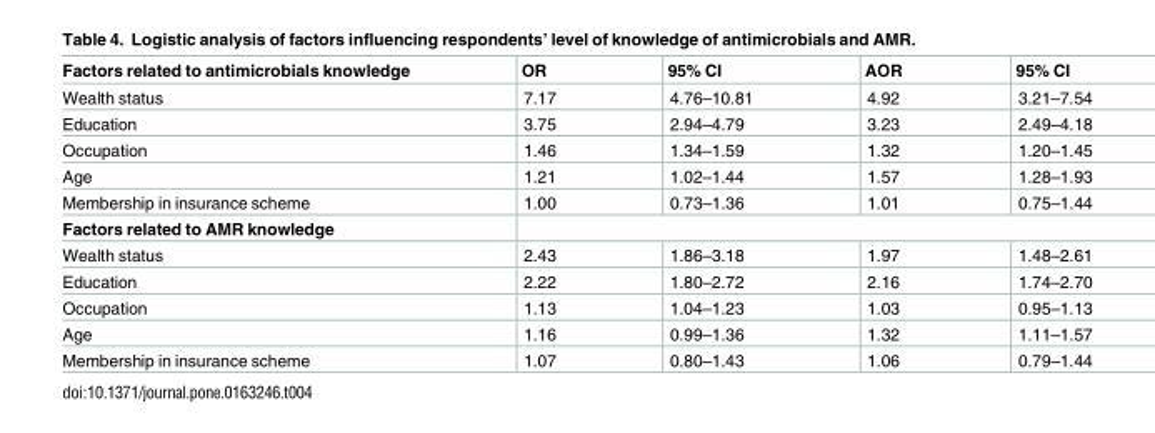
<table><thead><tr><td>Factors related to antimicrobials knowledge</td><td>OR</td><td>95% CI</td><td>AOR</td><td>95% CI</td></tr></thead><tbody><tr><td>Wealth status</td><td>7.17</td><td>4.76–10.81</td><td>4.92</td><td>3.21–7.54</td></tr><tr><td>Education</td><td>3.75</td><td>2.94–4.79</td><td>3.23</td><td>2.49–4.18</td></tr><tr><td>Occupation</td><td>1.46</td><td>1.34–1.59</td><td>1.32</td><td>1.20–1.45</td></tr><tr><td>Age</td><td>1.21</td><td>1.02–1.44</td><td>1.57</td><td>1.28–1.93</td></tr><tr><td>Membership in insurance scheme</td><td>1.00</td><td>0.73–1.36</td><td>1.01</td><td>0.75–1.44</td></tr><tr><td colspan="5">Factors related to AMR knowledge</td></tr><tr><td>Wealth status</td><td>2.43</td><td>1.86–3.18</td><td>1.97</td><td>1.48–2.61</td></tr><tr><td>Education</td><td>2.22</td><td>1.80–2.72</td><td>2.16</td><td>1.74–2.70</td></tr><tr><td>Occupation</td><td>1.13</td><td>1.04–1.23</td><td>1.03</td><td>0.95–1.13</td></tr><tr><td>Age</td><td>1.16</td><td>0.99–1.36</td><td>1.32</td><td>1.11–1.57</td></tr><tr><td>Membership in insurance scheme</td><td>1.07</td><td>0.80–1.43</td><td>1.06</td><td>0.79–1.44</td></tr></tbody></table>